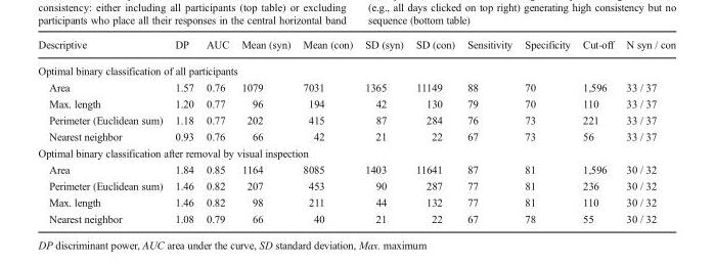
<table><thead><tr><td>Descriptive</td><td>DP</td><td>AUC</td><td>Mean (syn)</td><td>Mean (con)</td><td>SD (syn)</td><td>SD (con)</td><td>Sensitivity</td><td>Specificity</td><td>Cut-off</td><td>N syn / con</td></tr></thead><tbody><tr><td colspan="11">Optimal binary classification of all participants</td></tr><tr><td>Area</td><td>1.57</td><td>0.76</td><td>1079</td><td>7031</td><td>1365</td><td>11149</td><td>88</td><td>70</td><td>1,596</td><td>33 / 37</td></tr><tr><td>Max. length</td><td>1.20</td><td>0.77</td><td>96</td><td>194</td><td>42</td><td>130</td><td>79</td><td>70</td><td>110</td><td>33 / 37</td></tr><tr><td>Perimeter (Euclidean sum)</td><td>1.18</td><td>0.77</td><td>202</td><td>415</td><td>87</td><td>284</td><td>76</td><td>73</td><td>221</td><td>33 / 37</td></tr><tr><td>Nearest neighbor</td><td>0.93</td><td>0.76</td><td>66</td><td>42</td><td>21</td><td>22</td><td>67</td><td>73</td><td>56</td><td>33 / 37</td></tr><tr><td colspan="11">Optimal binary classification after removal by visual inspection</td></tr><tr><td>Area</td><td>1.84</td><td>0.85</td><td>1164</td><td>8085</td><td>1403</td><td>11641</td><td>87</td><td>81</td><td>1,596</td><td>30 / 32</td></tr><tr><td>Perimeter (Euclidean sum)</td><td>1.46</td><td>0.82</td><td>207</td><td>453</td><td>90</td><td>287</td><td>77</td><td>81</td><td>236</td><td>30 / 32</td></tr><tr><td>Max. length</td><td>1.46</td><td>0.82</td><td>98</td><td>211</td><td>44</td><td>132</td><td>77</td><td>81</td><td>110</td><td>30 / 32</td></tr><tr><td>Nearest neighbor</td><td>1.08</td><td>0.79</td><td>66</td><td>40</td><td>21</td><td>22</td><td>67</td><td>78</td><td>55</td><td>30 / 32</td></tr></tbody></table>